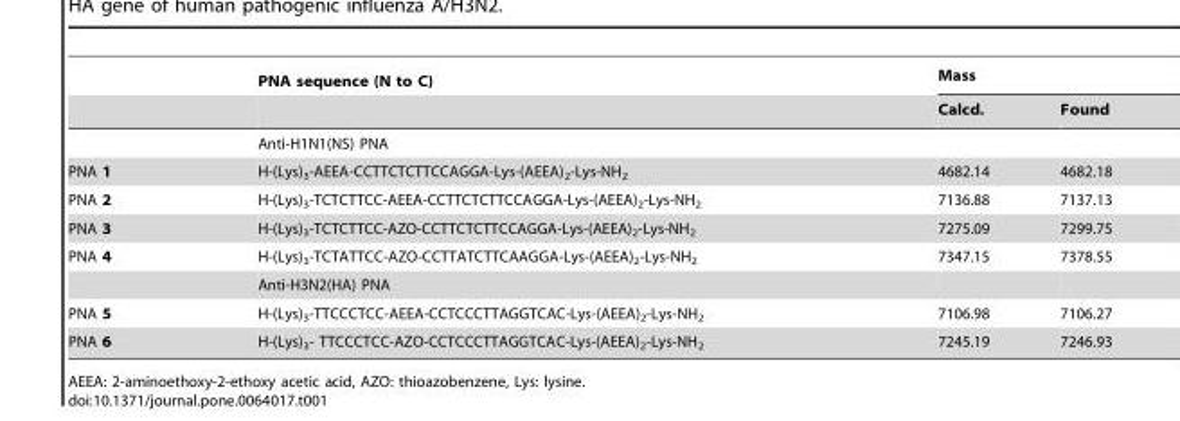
<table><thead><tr><td rowspan="2"></td><td rowspan="2">PNA sequence (N to C)</td><td colspan="2">Mass</td></tr><tr><td>Calcd.</td><td>Found</td></tr></thead><tbody><tr><td></td><td>Anti-H1N1(NS) PNA</td><td></td><td></td></tr><tr><td>PNA 1</td><td>H-(Lys)<sub>3</sub>-AEEA-CCTTCTCTTCCAGGA-Lys-(AEEA)<sub>2</sub>-Lys-NH<sub>2</sub></td><td>4682.14</td><td>4682.18</td></tr><tr><td>PNA 2</td><td>H-(Lys)<sub>3</sub>-TCTCTTCC-AEEA-CCTTCTCTTCCAGGA-Lys-(AEEA)<sub>2</sub>-Lys-NH<sub>2</sub></td><td>7136.88</td><td>7137.13</td></tr><tr><td>PNA 3</td><td>H-(Lys)<sub>3</sub>-TCTCTTCC-AZO-CCTTCTCTTCCAGGA-Lys-(AEEA)<sub>2</sub>-Lys-NH<sub>2</sub></td><td>7275.09</td><td>7299.75</td></tr><tr><td rowspan="2">PNA 4</td><td>H-(Lys)<sub>3</sub>-TCTATTCC-AZO-CCTTATCTTCAAGGA-Lys-(AEEA)<sub>2</sub>-Lys-NH<sub>2</sub></td><td>7347.15</td><td>7378.55</td></tr><tr><td>Anti-H3N2(HA) PNA</td><td></td><td></td></tr><tr><td>PNA 5</td><td>H-(Lys)<sub>3</sub>-TTCCCTCC-AEEA-CCTCCCTTAGGTCAC-Lys-(AEEA)<sub>2</sub>-Lys-NH<sub>2</sub></td><td>7106.98</td><td>7106.27</td></tr><tr><td>PNA 6</td><td>H-(Lys)<sub>3</sub>- TTCCCTCC-AZO-CCTCCCTTAGGTCAC-Lys-(AEEA)<sub>2</sub>-Lys-NH<sub>2</sub></td><td>7245.19</td><td>7246.93</td></tr></tbody></table>